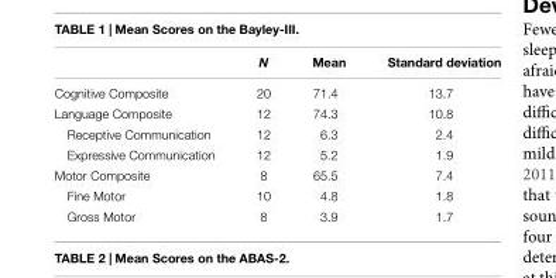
<table><thead><tr><td></td><td>N</td><td>Mean</td><td>Standard deviation</td></tr></thead><tbody><tr><td>Cognitive Composite</td><td>20</td><td>71.4</td><td>13.7</td></tr><tr><td>Language Composite</td><td>12</td><td>74.3</td><td>10.8</td></tr><tr><td>Receptive Communication</td><td>12</td><td>6.3</td><td>2.4</td></tr><tr><td>Expressive Communication</td><td>12</td><td>5.2</td><td>1.9</td></tr><tr><td>Motor Composite</td><td>8</td><td>65.5</td><td>7.4</td></tr><tr><td>Fine Motor</td><td>10</td><td>4.8</td><td>1.8</td></tr><tr><td>Gross Motor</td><td>8</td><td>3.9</td><td>1.7</td></tr></tbody></table>